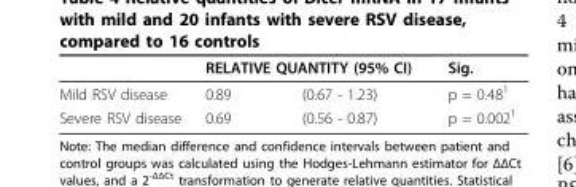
<table><thead><tr><td rowspan="2">Mild RSV disease</td><td colspan="2">RELATIVE QUANTITY (95% CI)</td><td rowspan="2">Sig. p = 0.48<sup>1</sup></td></tr><tr><td>0.89</td><td>(0.67 - 1.23)</td></tr></thead><tbody><tr><td>Severe RSV disease</td><td>0.69</td><td>(0.56 - 0.87)</td><td>p = 0.002<sup>1</sup></td></tr></tbody></table>